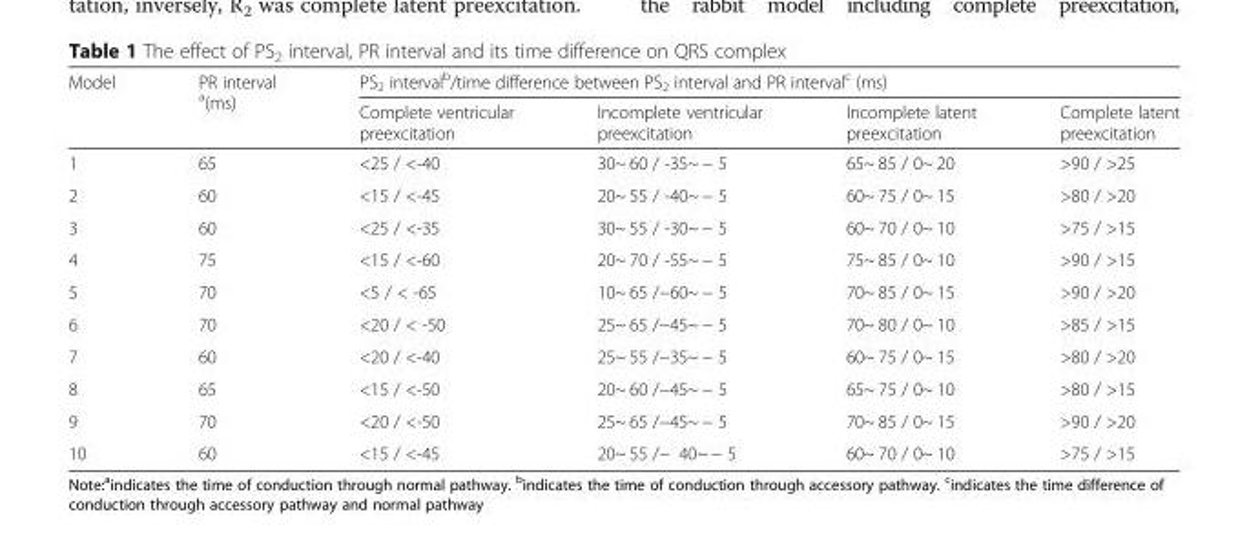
<table><thead><tr><td rowspan="2">Model</td><td rowspan="2">PR interval <sup>a</sup>(ms)</td><td colspan="4">PS<sub>2</sub> interval<sup>b</sup>/time difference between PS<sub>2</sub> interval and PR interval<sup>c</sup> (ms)</td></tr><tr><td>Complete ventricular preexcitation</td><td>Incomplete ventricular preexcitation</td><td>Incomplete latent preexcitation</td><td>Complete latent preexcitation</td></tr></thead><tbody><tr><td>1</td><td>65</td><td>&lt;25 / &lt;-40</td><td>30~ 60 / -35~ − 5</td><td>65~ 85 / 0~ 20</td><td>&gt;90 / &gt;25</td></tr><tr><td>2</td><td>60</td><td>&lt;15 / &lt;-45</td><td>20~ 55 / -40~ − 5</td><td>60~ 75 / 0~ 15</td><td>&gt;80 / &gt;20</td></tr><tr><td>3</td><td>60</td><td>&lt;25 / &lt;-35</td><td>30~ 55 / -30~ − 5</td><td>60~ 70 / 0~ 10</td><td>&gt;75 / &gt;15</td></tr><tr><td>4</td><td>75</td><td>&lt;15 / &lt;-60</td><td>20~ 70 / -55~ − 5</td><td>75~ 85 / 0~ 10</td><td>&gt;90 / &gt;15</td></tr><tr><td>5</td><td>70</td><td>&lt;5 / &lt; -65</td><td>10~ 65 /−60~ − 5</td><td>70~ 85 / 0~ 15</td><td>&gt;90 / &gt;20</td></tr><tr><td>6</td><td>70</td><td>&lt;20 / &lt; -50</td><td>25~ 65 /−45~ − 5</td><td>70~ 80 / 0~ 10</td><td>&gt;85 / &gt;15</td></tr><tr><td>7</td><td>60</td><td>&lt;20 / &lt;-40</td><td>25~ 55 /−35~ − 5</td><td>60~ 75 / 0~ 15</td><td>&gt;80 / &gt;20</td></tr><tr><td>8</td><td>65</td><td>&lt;15 / &lt;-50</td><td>20~ 60 /−45~ − 5</td><td>65~ 75 / 0~ 10</td><td>&gt;80 / &gt;15</td></tr><tr><td>9</td><td>70</td><td>&lt;20 / &lt;-50</td><td>25~ 65 /−45~ − 5</td><td>70~ 85 / 0~ 15</td><td>&gt;90 / &gt;20</td></tr><tr><td>10</td><td>60</td><td>&lt;15 / &lt;-45</td><td>20~ 55 /− 40~ − 5</td><td>60~ 70 / 0~ 10</td><td>&gt;75 / &gt;15</td></tr></tbody></table>